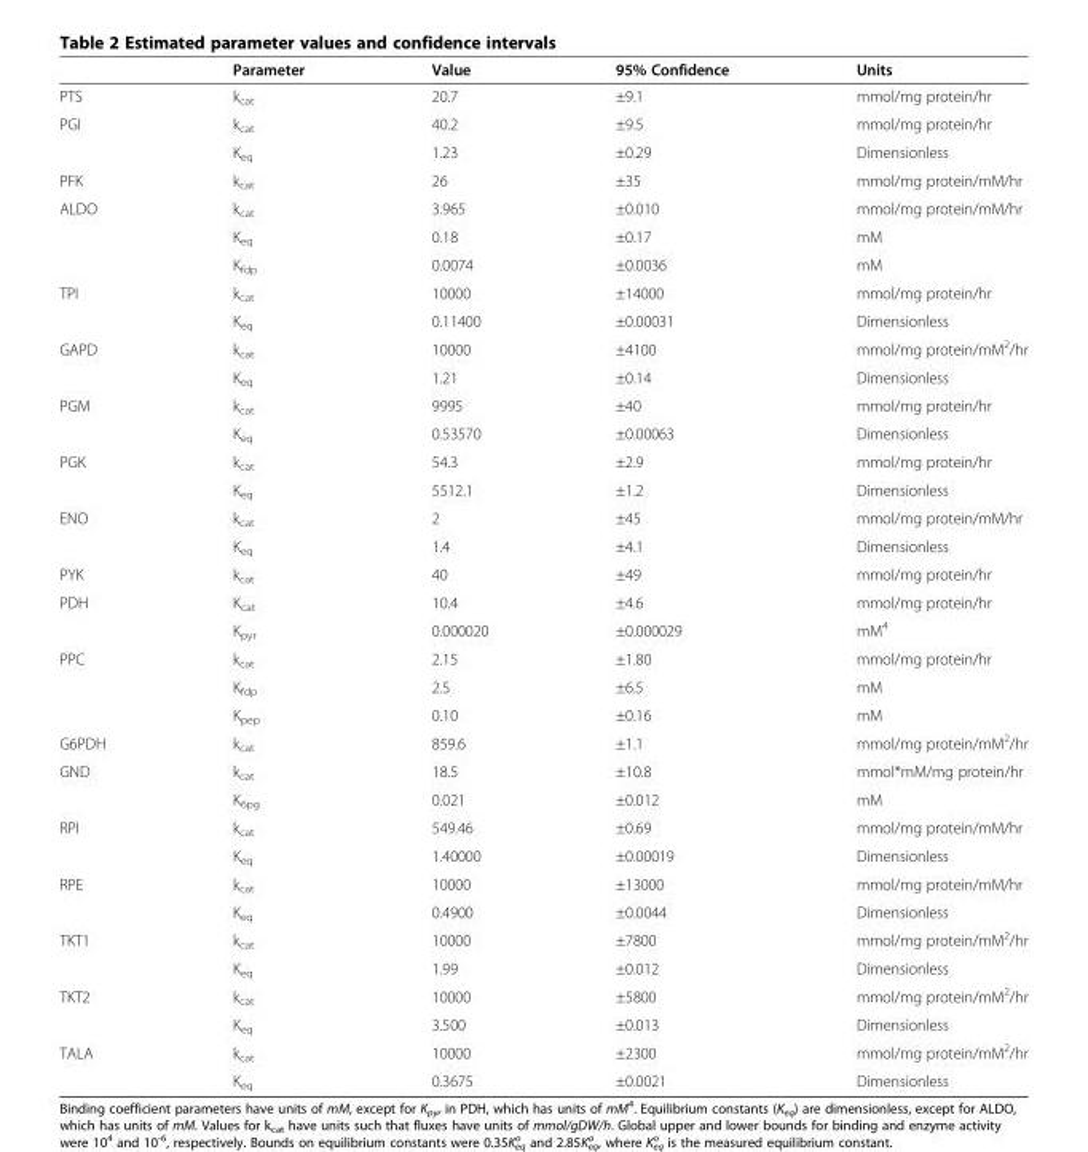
<table><thead><tr><td></td><td>Parameter</td><td>Value</td><td>95% Confidence</td><td>Units</td></tr></thead><tbody><tr><td>PTS</td><td>k<sub>cat</sub></td><td>20.7</td><td>±9.1</td><td>mmol/mg protein/hr</td></tr><tr><td rowspan="2">PGI</td><td>k<sub>cat</sub></td><td>40.2</td><td>±9.5</td><td>mmol/mg protein/hr</td></tr><tr><td>K<sub>eq</sub></td><td>1.23</td><td>±0.29</td><td>Dimensionless</td></tr><tr><td>PFK</td><td>k<sub>cat</sub></td><td>26</td><td>±35</td><td>mmol/mg protein/mM/hr</td></tr><tr><td rowspan="3">ALDO</td><td>k<sub>cat</sub></td><td>3.965</td><td>±0.010</td><td>mmol/mg protein/mM/hr</td></tr><tr><td>K<sub>eq</sub></td><td>0.18</td><td>±0.17</td><td>mM</td></tr><tr><td>K<sub>fdp</sub></td><td>0.0074</td><td>±0.0036</td><td>mM</td></tr><tr><td rowspan="2">TPI</td><td>k<sub>cat</sub></td><td>10000</td><td>±14000</td><td>mmol/mg protein/hr</td></tr><tr><td>K<sub>eq</sub></td><td>0.11400</td><td>±0.00031</td><td>Dimensionless</td></tr><tr><td rowspan="2">GAPD</td><td>k<sub>cat</sub></td><td>10000</td><td>±4100</td><td>mmol/mg protein/mM<sup>2</sup>/hr</td></tr><tr><td>K<sub>eq</sub></td><td>1.21</td><td>±0.14</td><td>Dimensionless</td></tr><tr><td rowspan="2">PGM</td><td>k<sub>cat</sub></td><td>9995</td><td>±40</td><td>mmol/mg protein/hr</td></tr><tr><td>K<sub>eq</sub></td><td>0.53570</td><td>±0.00063</td><td>Dimensionless</td></tr><tr><td rowspan="2">PGK</td><td>k<sub>cat</sub></td><td>54.3</td><td>±2.9</td><td>mmol/mg protein/hr</td></tr><tr><td>K<sub>eq</sub></td><td>5512.1</td><td>±1.2</td><td>Dimensionless</td></tr><tr><td rowspan="2">ENO</td><td>k<sub>cat</sub></td><td>2</td><td>±45</td><td>mmol/mg protein/mM/hr</td></tr><tr><td>K<sub>eq</sub></td><td>1.4</td><td>±4.1</td><td>Dimensionless</td></tr><tr><td>PYK</td><td>k<sub>cat</sub></td><td>40</td><td>±49</td><td>mmol/mg protein/hr</td></tr><tr><td rowspan="2">PDH</td><td>K<sub>cat</sub></td><td>10.4</td><td>±4.6</td><td>mmol/mg protein/hr</td></tr><tr><td>K<sub>pyr</sub></td><td>0.000020</td><td>±0.000029</td><td>mM<sup>4</sup></td></tr><tr><td rowspan="3">PPC</td><td>k<sub>cat</sub></td><td>2.15</td><td>±1.80</td><td>mmol/mg protein/hr</td></tr><tr><td>K<sub>fdp</sub></td><td>2.5</td><td>±6.5</td><td>mM</td></tr><tr><td>K<sub>pep</sub></td><td>0.10</td><td>±0.16</td><td>mM</td></tr><tr><td>G6PDH</td><td>k<sub>cat</sub></td><td>859.6</td><td>±1.1</td><td>mmol/mg protein/mM<sup>2</sup>/hr</td></tr><tr><td rowspan="2">GND</td><td>k<sub>cat</sub></td><td>18.5</td><td>±10.8</td><td>mmol*mM/mg protein/hr</td></tr><tr><td>K<sub>6pg</sub></td><td>0.021</td><td>±0.012</td><td>mM</td></tr><tr><td rowspan="2">RPI</td><td>k<sub>cat</sub></td><td>549.46</td><td>±0.69</td><td>mmol/mg protein/mM/hr</td></tr><tr><td>K<sub>eq</sub></td><td>1.40000</td><td>±0.00019</td><td>Dimensionless</td></tr><tr><td rowspan="2">RPE</td><td>k<sub>cat</sub></td><td>10000</td><td>±13000</td><td>mmol/mg protein/mM/hr</td></tr><tr><td>K<sub>eq</sub></td><td>0.4900</td><td>±0.0044</td><td>Dimensionless</td></tr><tr><td rowspan="2">TKT1</td><td>k<sub>cat</sub></td><td>10000</td><td>±7800</td><td>mmol/mg protein/mM<sup>2</sup>/hr</td></tr><tr><td>K<sub>eq</sub></td><td>1.99</td><td>±0.012</td><td>Dimensionless</td></tr><tr><td rowspan="2">TKT2</td><td>k<sub>cat</sub></td><td>10000</td><td>±5800</td><td>mmol/mg protein/mM<sup>2</sup>/hr</td></tr><tr><td>K<sub>eq</sub></td><td>3.500</td><td>±0.013</td><td>Dimensionless</td></tr><tr><td rowspan="2">TALA</td><td>k<sub>cat</sub></td><td>10000</td><td>±2300</td><td>mmol/mg protein/mM<sup>2</sup>/hr</td></tr><tr><td>K<sub>eq</sub></td><td>0.3675</td><td>±0.0021</td><td>Dimensionless</td></tr></tbody></table>